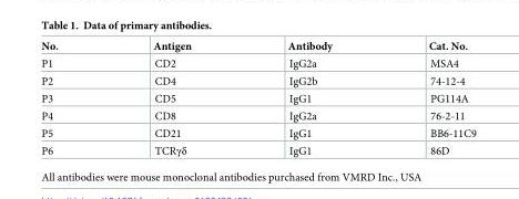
<table><thead><tr><td>No.</td><td>Antigen</td><td>Antibody</td><td>Cat. No.</td></tr></thead><tbody><tr><td>P1</td><td>CD2</td><td>IgG2a</td><td>MSA4</td></tr><tr><td>P2</td><td>CD4</td><td>IgG2b</td><td>74-12-4</td></tr><tr><td>P3</td><td>CD5</td><td>IgG1</td><td>PG114A</td></tr><tr><td>P4</td><td>CD8</td><td>IgG2a</td><td>76-2-11</td></tr><tr><td>P5</td><td>CD21</td><td>IgG1</td><td>BB6-11C9</td></tr><tr><td>P6</td><td>TCRγδ</td><td>IgG1</td><td>86D</td></tr></tbody></table>